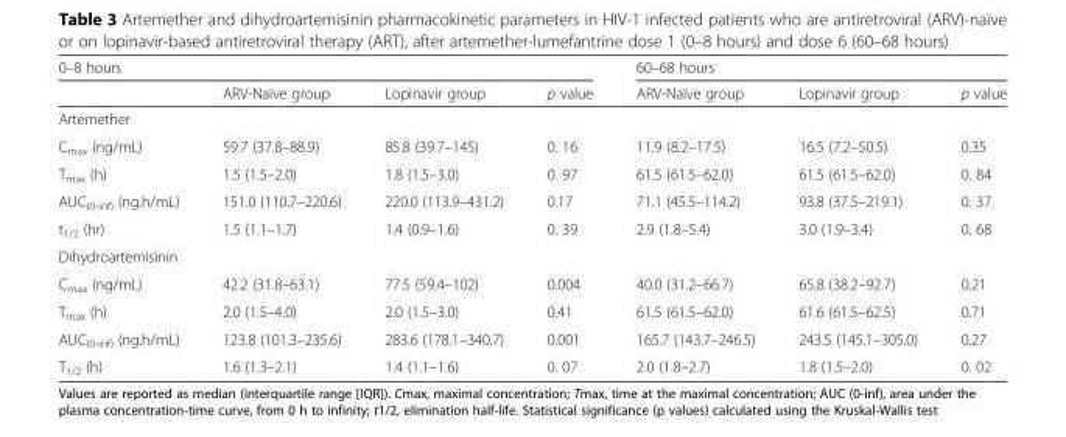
<table><thead><tr><td colspan="4">0–8 hours</td><td colspan="3">60–68 hours</td></tr><tr><td></td><td>ARV-Naïve group</td><td>Lopinavir group</td><td>p value</td><td>ARV-Naïve group</td><td>Lopinavir group</td><td>p value</td></tr></thead><tbody><tr><td colspan="7">Artemether</td></tr><tr><td>C<sub>max</sub> (ng/mL)</td><td>59.7 (37.8–88.9)</td><td>85.8 (39.7–145)</td><td>0. 16</td><td>11.9 (8.2–17.5)</td><td>16.5 (7.2–50.5)</td><td>0.35</td></tr><tr><td>T<sub>max</sub> (h)</td><td>1.5 (1.5–2.0)</td><td>1.8 (1.5–3.0)</td><td>0. 97</td><td>61.5 (61.5–62.0)</td><td>61.5 (61.5–62.0)</td><td>0. 84</td></tr><tr><td>AUC<sub>(0-inf)</sub> (ng.h/mL)</td><td>151.0 (110.7–220.6)</td><td>220.0 (113.9–431.2)</td><td>0.17</td><td>71.1 (45.5–114.2)</td><td>93.8 (37.5–219.1)</td><td>0. 37</td></tr><tr><td>t<sub>1/2</sub> (hr)</td><td>1.5 (1.1–1.7)</td><td>1.4 (0.9–1.6)</td><td>0. 39</td><td>2.9 (1.8–5.4)</td><td>3.0 (1.9–3.4)</td><td>0. 68</td></tr><tr><td colspan="7">Dihydroartemisinin</td></tr><tr><td>C<sub>max</sub> (ng/mL)</td><td>42.2 (31.8–63.1)</td><td>77.5 (59.4–102)</td><td>0.004</td><td>40.0 (31.2–66.7)</td><td>65.8 (38.2–92.7)</td><td>0.21</td></tr><tr><td>T<sub>max</sub> (h)</td><td>2.0 (1.5–4.0)</td><td>2.0 (1.5–3.0)</td><td>0.41</td><td>61.5 (61.5–62.0)</td><td>61.6 (61.5–62.5)</td><td>0.71</td></tr><tr><td>AUC<sub>(0-inf)</sub> (ng.h/mL)</td><td>123.8 (101.3–235.6)</td><td>283.6 (178.1–340.7)</td><td>0.001</td><td>165.7 (143.7–246.5)</td><td>243.5 (145.1–305.0)</td><td>0.27</td></tr><tr><td>T<sub>1/2</sub> (h)</td><td>1.6 (1.3–2.1)</td><td>1.4 (1.1–1.6)</td><td>0. 07</td><td>2.0 (1.8–2.7)</td><td>1.8 (1.5–2.0)</td><td>0. 02</td></tr></tbody></table>